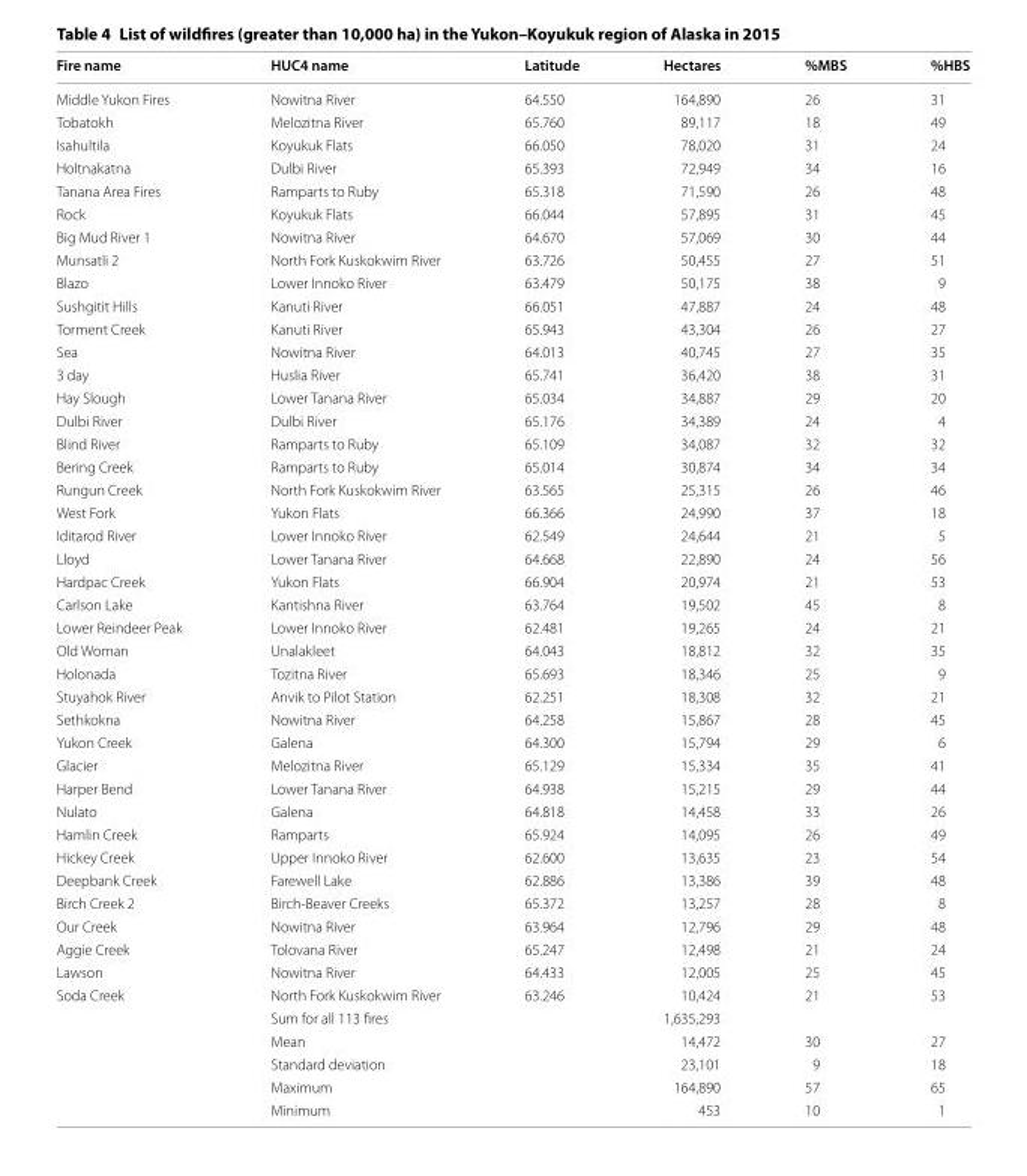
<table><thead><tr><td>Fire name</td><td>HUC4 name</td><td>Latitude</td><td>Hectares</td><td>%MBS</td><td>%HBS</td></tr></thead><tbody><tr><td>Middle Yukon Fires</td><td>Nowitna River</td><td>64.550</td><td>164,890</td><td>26</td><td>31</td></tr><tr><td>Tobatokh</td><td>Melozitna River</td><td>65.760</td><td>89,117</td><td>18</td><td>49</td></tr><tr><td>Isahultila</td><td>Koyukuk Flats</td><td>66.050</td><td>78,020</td><td>31</td><td>24</td></tr><tr><td>Holtnakatna</td><td>Dulbi River</td><td>65.393</td><td>72,949</td><td>34</td><td>16</td></tr><tr><td>Tanana Area Fires</td><td>Ramparts to Ruby</td><td>65.318</td><td>71,590</td><td>26</td><td>48</td></tr><tr><td>Rock</td><td>Koyukuk Flats</td><td>66.044</td><td>57,895</td><td>31</td><td>45</td></tr><tr><td>Big Mud River 1</td><td>Nowitna River</td><td>64.670</td><td>57,069</td><td>30</td><td>44</td></tr><tr><td>Munsatli 2</td><td>North Fork Kuskokwim River</td><td>63.726</td><td>50,455</td><td>27</td><td>51</td></tr><tr><td>Blazo</td><td>Lower Innoko River</td><td>63.479</td><td>50,175</td><td>38</td><td>9</td></tr><tr><td>Sushgitit Hills</td><td>Kanuti River</td><td>66.051</td><td>47,887</td><td>24</td><td>48</td></tr><tr><td>Torment Creek</td><td>Kanuti River</td><td>65.943</td><td>43,304</td><td>26</td><td>27</td></tr><tr><td>Sea</td><td>Nowitna River</td><td>64.013</td><td>40,745</td><td>27</td><td>35</td></tr><tr><td>3 day</td><td>Huslia River</td><td>65.741</td><td>36,420</td><td>38</td><td>31</td></tr><tr><td>Hay Slough</td><td>Lower Tanana River</td><td>65.034</td><td>34,887</td><td>29</td><td>20</td></tr><tr><td>Dulbi River</td><td>Dulbi River</td><td>65.176</td><td>34,389</td><td>24</td><td>4</td></tr><tr><td>Blind River</td><td>Ramparts to Ruby</td><td>65.109</td><td>34,087</td><td>32</td><td>32</td></tr><tr><td>Bering Creek</td><td>Ramparts to Ruby</td><td>65.014</td><td>30,874</td><td>34</td><td>34</td></tr><tr><td>Rungun Creek</td><td>North Fork Kuskokwim River</td><td>63.565</td><td>25,315</td><td>26</td><td>46</td></tr><tr><td>West Fork</td><td>Yukon Flats</td><td>66.366</td><td>24,990</td><td>37</td><td>18</td></tr><tr><td>Iditarod River</td><td>Lower Innoko River</td><td>62.549</td><td>24,644</td><td>21</td><td>5</td></tr><tr><td>Lloyd</td><td>Lower Tanana River</td><td>64.668</td><td>22,890</td><td>24</td><td>56</td></tr><tr><td>Hardpac Creek</td><td>Yukon Flats</td><td>66.904</td><td>20,974</td><td>21</td><td>53</td></tr><tr><td>Carlson Lake</td><td>Kantishna River</td><td>63.764</td><td>19,502</td><td>45</td><td>8</td></tr><tr><td>Lower Reindeer Peak</td><td>Lower Innoko River</td><td>62.481</td><td>19,265</td><td>24</td><td>21</td></tr><tr><td>Old Woman</td><td>Unalakleet</td><td>64.043</td><td>18,812</td><td>32</td><td>35</td></tr><tr><td>Holonada</td><td>Tozitna River</td><td>65.693</td><td>18,346</td><td>25</td><td>9</td></tr><tr><td>Stuyahok River</td><td>Anvik to Pilot Station</td><td>62.251</td><td>18,308</td><td>32</td><td>21</td></tr><tr><td>Sethkokna</td><td>Nowitna River</td><td>64.258</td><td>15,867</td><td>28</td><td>45</td></tr><tr><td>Yukon Creek</td><td>Galena</td><td>64.300</td><td>15,794</td><td>29</td><td>6</td></tr><tr><td>Glacier</td><td>Melozitna River</td><td>65.129</td><td>15,334</td><td>35</td><td>41</td></tr><tr><td>Harper Bend</td><td>Lower Tanana River</td><td>64.938</td><td>15,215</td><td>29</td><td>44</td></tr><tr><td>Nulato</td><td>Galena</td><td>64.818</td><td>14,458</td><td>33</td><td>26</td></tr><tr><td>Hamlin Creek</td><td>Ramparts</td><td>65.924</td><td>14,095</td><td>26</td><td>49</td></tr><tr><td>Hickey Creek</td><td>Upper Innoko River</td><td>62.600</td><td>13,635</td><td>23</td><td>54</td></tr><tr><td>Deepbank Creek</td><td>Farewell Lake</td><td>62.886</td><td>13,386</td><td>39</td><td>48</td></tr><tr><td>Birch Creek 2</td><td>Birch-Beaver Creeks</td><td>65.372</td><td>13,257</td><td>28</td><td>8</td></tr><tr><td>Our Creek</td><td>Nowitna River</td><td>63.964</td><td>12,796</td><td>29</td><td>48</td></tr><tr><td>Aggie Creek</td><td>Tolovana River</td><td>65.247</td><td>12,498</td><td>21</td><td>24</td></tr><tr><td>Lawson</td><td>Nowitna River</td><td>64.433</td><td>12,005</td><td>25</td><td>45</td></tr><tr><td rowspan="6">Soda Creek</td><td>North Fork Kuskokwim River</td><td>63.246</td><td>10,424</td><td>21</td><td>53</td></tr><tr><td>Sum for all 113 fires</td><td></td><td>1,635,293</td><td></td><td></td></tr><tr><td>Mean</td><td></td><td>14,472</td><td>30</td><td>27</td></tr><tr><td>Standard deviation</td><td></td><td>23,101</td><td>9</td><td>18</td></tr><tr><td>Maximum</td><td></td><td>164,890</td><td>57</td><td>65</td></tr><tr><td>Minimum</td><td></td><td>453</td><td>10</td><td>1</td></tr></tbody></table>